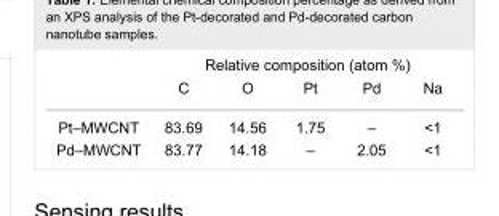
<table><thead><tr><td rowspan="2"></td><td colspan="5">Relative composition (atom %)</td></tr><tr><td>C</td><td>O</td><td>Pt</td><td>Pd</td><td>Na</td></tr></thead><tbody><tr><td>Pt–MWCNT</td><td>83.69</td><td>14.56</td><td>1.75</td><td>–</td><td>&lt;1</td></tr><tr><td>Pd–MWCNT</td><td>83.77</td><td>14.18</td><td>–</td><td>2.05</td><td>&lt;1</td></tr></tbody></table>